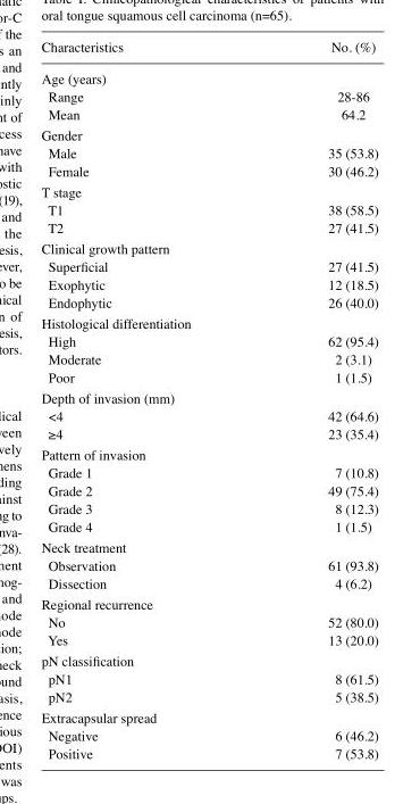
<table><thead><tr><td>Characteristics</td><td>No. (%)</td></tr></thead><tbody><tr><td colspan="2">Age (years)</td></tr><tr><td>Range</td><td>28-86</td></tr><tr><td>Mean</td><td>64.2</td></tr><tr><td colspan="2">Gender</td></tr><tr><td>Male</td><td>35 (53.8)</td></tr><tr><td>Female</td><td>30 (46.2)</td></tr><tr><td colspan="2">T stage</td></tr><tr><td>T1</td><td>38 (58.5)</td></tr><tr><td>T2</td><td>27 (41.5)</td></tr><tr><td colspan="2">Clinical growth pattern</td></tr><tr><td>Superficial</td><td>27 (41.5)</td></tr><tr><td>Exophytic</td><td>12 (18.5)</td></tr><tr><td>Endophytic</td><td>26 (40.0)</td></tr><tr><td colspan="2">Histological differentiation</td></tr><tr><td>High</td><td>62 (95.4)</td></tr><tr><td>Moderate</td><td>2 (3.1)</td></tr><tr><td>Poor</td><td>1 (1.5)</td></tr><tr><td colspan="2">Depth of invasion (mm)</td></tr><tr><td>&lt;4</td><td>42 (64.6)</td></tr><tr><td>≥4</td><td>23 (35.4)</td></tr><tr><td colspan="2">Pattern of invasion</td></tr><tr><td>Grade 1</td><td>7 (10.8)</td></tr><tr><td>Grade 2</td><td>49 (75.4)</td></tr><tr><td>Grade 3</td><td>8 (12.3)</td></tr><tr><td>Grade 4</td><td>1 (1.5)</td></tr><tr><td colspan="2">Neck treatment</td></tr><tr><td>Observation</td><td>61 (93.8)</td></tr><tr><td>Dissection</td><td>4 (6.2)</td></tr><tr><td colspan="2">Regional recurrence</td></tr><tr><td>No</td><td>52 (80.0)</td></tr><tr><td>Yes</td><td>13 (20.0)</td></tr><tr><td colspan="2">pN classification</td></tr><tr><td>pN1</td><td>8 (61.5)</td></tr><tr><td>pN2</td><td>5 (38.5)</td></tr><tr><td colspan="2">Extracapsular spread</td></tr><tr><td>Negative</td><td>6 (46.2)</td></tr><tr><td>Positive</td><td>7 (53.8)</td></tr></tbody></table>